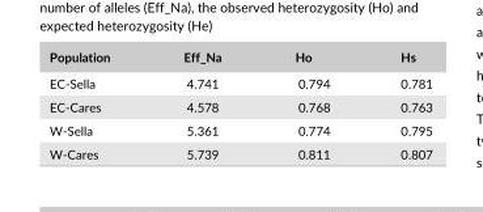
<table><thead><tr><td>Population</td><td>Eff_Na</td><td>Ho</td><td>Hs</td></tr></thead><tbody><tr><td>EC- Sella</td><td>4.741</td><td>0.794</td><td>0.781</td></tr><tr><td>EC- Cares</td><td>4.578</td><td>0.768</td><td>0.763</td></tr><tr><td>W- Sella</td><td>5.361</td><td>0.774</td><td>0.795</td></tr><tr><td>W- Cares</td><td>5.739</td><td>0.811</td><td>0.807</td></tr></tbody></table>